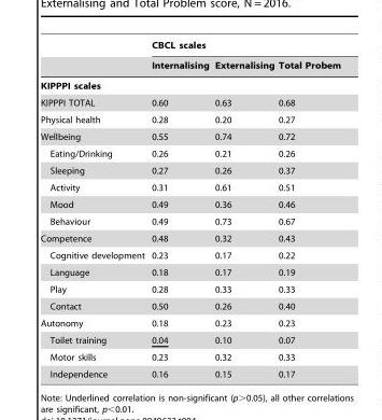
<table><thead><tr><td rowspan="2"></td><td colspan="3">CBCL scales</td></tr><tr><td>Internalising</td><td>Externalising</td><td>Total Probem</td></tr></thead><tbody><tr><td colspan="4">KIPPPI scales</td></tr><tr><td>KIPPPI TOTAL</td><td>0.60</td><td>0.63</td><td>0.68</td></tr><tr><td>Physical health</td><td>0.28</td><td>0.20</td><td>0.27</td></tr><tr><td>Wellbeing</td><td>0.55</td><td>0.74</td><td>0.72</td></tr><tr><td>Eating/Drinking</td><td>0.26</td><td>0.21</td><td>0.26</td></tr><tr><td>Sleeping</td><td>0.27</td><td>0.26</td><td>0.37</td></tr><tr><td>Activity</td><td>0.31</td><td>0.61</td><td>0.51</td></tr><tr><td>Mood</td><td>0.49</td><td>0.36</td><td>0.46</td></tr><tr><td>Behaviour</td><td>0.49</td><td>0.73</td><td>0.67</td></tr><tr><td>Competence</td><td>0.48</td><td>0.32</td><td>0.43</td></tr><tr><td>Cognitive development</td><td>0.23</td><td>0.17</td><td>0.22</td></tr><tr><td>Language</td><td>0.18</td><td>0.17</td><td>0.19</td></tr><tr><td>Play</td><td>0.28</td><td>0.33</td><td>0.33</td></tr><tr><td>Contact</td><td>0.50</td><td>0.26</td><td>0.40</td></tr><tr><td>Autonomy</td><td>0.18</td><td>0.23</td><td>0.23</td></tr><tr><td>Toilet training</td><td>0.04</td><td>0.10</td><td>0.07</td></tr><tr><td>Motor skills</td><td>0.23</td><td>0.32</td><td>0.33</td></tr><tr><td>Independence</td><td>0.16</td><td>0.15</td><td>0.17</td></tr></tbody></table>